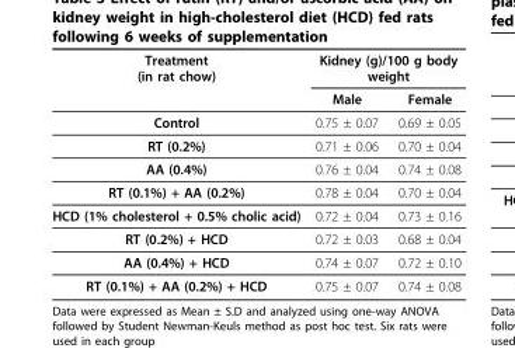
<table><thead><tr><td rowspan="2">Treatment (in rat chow)</td><td colspan="2">Kidney (g)/100 g body weight</td></tr><tr><td>Male</td><td>Female</td></tr></thead><tbody><tr><td>Control</td><td>0.75 ± 0.07</td><td>0.69 ± 0.05</td></tr><tr><td>RT (0.2%)</td><td>0.71 ± 0.06</td><td>0.70 ± 0.04</td></tr><tr><td>AA (0.4%)</td><td>0.76 ± 0.04</td><td>0.74 ± 0.08</td></tr><tr><td>RT (0.1%) + AA (0.2%)</td><td>0.78 ± 0.04</td><td>0.70 ± 0.04</td></tr><tr><td>HCD (1% cholesterol + 0.5% cholic acid)</td><td>0.72 ± 0.04</td><td>0.73 ± 0.16</td></tr><tr><td>RT (0.2%) + HCD</td><td>0.72 ± 0.03</td><td>0.68 ± 0.04</td></tr><tr><td>AA (0.4%) + HCD</td><td>0.74 ± 0.07</td><td>0.72 ± 0.10</td></tr><tr><td>RT (0.1%) + AA (0.2%) + HCD</td><td>0.75 ± 0.07</td><td>0.74 ± 0.08</td></tr></tbody></table>